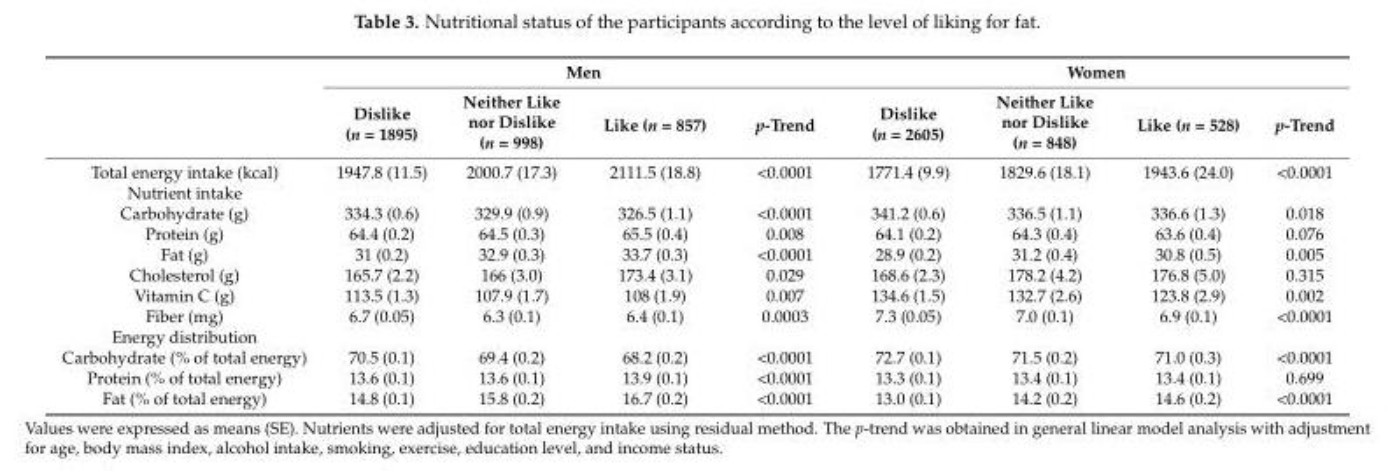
<table><thead><tr><td rowspan="2"></td><td colspan="4">Men</td><td colspan="4">Women</td></tr><tr><td>Dislike (n = 1895)</td><td>Neither Like nor Dislike (n = 998)</td><td>Like (n = 857)</td><td>p-Trend</td><td>Dislike (n = 2605)</td><td>Neither Like nor Dislike (n = 848)</td><td>Like (n = 528)</td><td>p-Trend</td></tr></thead><tbody><tr><td>Total energy intake (kcal)</td><td>1947.8 (11.5)</td><td>2000.7 (17.3)</td><td>2111.5 (18.8)</td><td>&lt;0.0001</td><td>1771.4 (9.9)</td><td>1829.6 (18.1)</td><td>1943.6 (24.0)</td><td>&lt;0.0001</td></tr><tr><td colspan="9">Nutrient intake</td></tr><tr><td>Carbohydrate (g)</td><td>334.3 (0.6)</td><td>329.9 (0.9)</td><td>326.5 (1.1)</td><td>&lt;0.0001</td><td>341.2 (0.6)</td><td>336.5 (1.1)</td><td>336.6 (1.3)</td><td>0.018</td></tr><tr><td>Protein (g)</td><td>64.4 (0.2)</td><td>64.5 (0.3)</td><td>65.5 (0.4)</td><td>0.008</td><td>64.1 (0.2)</td><td>64.3 (0.4)</td><td>63.6 (0.4)</td><td>0.076</td></tr><tr><td>Fat (g)</td><td>31 (0.2)</td><td>32.9 (0.3)</td><td>33.7 (0.3)</td><td>&lt;0.0001</td><td>28.9 (0.2)</td><td>31.2 (0.4)</td><td>30.8 (0.5)</td><td>0.005</td></tr><tr><td>Cholesterol (g)</td><td>165.7 (2.2)</td><td>166 (3.0)</td><td>173.4 (3.1)</td><td>0.029</td><td>168.6 (2.3)</td><td>178.2 (4.2)</td><td>176.8 (5.0)</td><td>0.315</td></tr><tr><td>Vitamin C (g)</td><td>113.5 (1.3)</td><td>107.9 (1.7)</td><td>108 (1.9)</td><td>0.007</td><td>134.6 (1.5)</td><td>132.7 (2.6)</td><td>123.8 (2.9)</td><td>0.002</td></tr><tr><td>Fiber (mg)</td><td>6.7 (0.05)</td><td>6.3 (0.1)</td><td>6.4 (0.1)</td><td>0.0003</td><td>7.3 (0.05)</td><td>7.0 (0.1)</td><td>6.9 (0.1)</td><td>&lt;0.0001</td></tr><tr><td colspan="9">Energy distribution</td></tr><tr><td>Carbohydrate (% of total energy)</td><td>70.5 (0.1)</td><td>69.4 (0.2)</td><td>68.2 (0.2)</td><td>&lt;0.0001</td><td>72.7 (0.1)</td><td>71.5 (0.2)</td><td>71.0 (0.3)</td><td>&lt;0.0001</td></tr><tr><td>Protein (% of total energy)</td><td>13.6 (0.1)</td><td>13.6 (0.1)</td><td>13.9 (0.1)</td><td>&lt;0.0001</td><td>13.3 (0.1)</td><td>13.4 (0.1)</td><td>13.4 (0.1)</td><td>0.699</td></tr><tr><td>Fat (% of total energy)</td><td>14.8 (0.1)</td><td>15.8 (0.2)</td><td>16.7 (0.2)</td><td>&lt;0.0001</td><td>13.0 (0.1)</td><td>14.2 (0.2)</td><td>14.6 (0.2)</td><td>&lt;0.0001</td></tr></tbody></table>